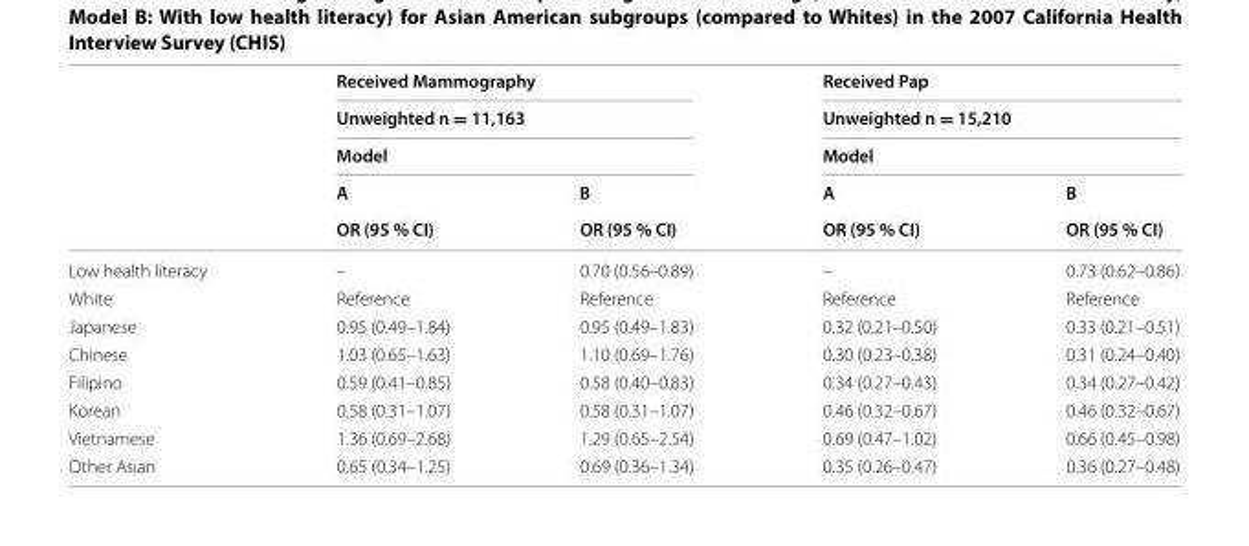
<table><thead><tr><td rowspan="5"></td><td rowspan="3" colspan="2">Received Mammography Unweighted n = 11,163 Model</td><td rowspan="3" colspan="2">Received Pap Unweighted n = 15,210 Model</td></tr><tr></tr><tr></tr><tr><td rowspan="2">A OR (95 % CI)</td><td rowspan="2">B OR (95 % CI)</td><td rowspan="2">A OR (95 % CI)</td><td rowspan="2">B OR (95 % CI)</td></tr><tr></tr></thead><tbody><tr><td>Low health literacy</td><td>–</td><td>0.70 (0.56–0.89)</td><td>–</td><td>0.73 (0.62–0.86)</td></tr><tr><td>White</td><td>Reference</td><td>Reference</td><td>Reference</td><td>Reference</td></tr><tr><td>Japanese</td><td>0.95 (0.49–1.84)</td><td>0.95 (0.49–1.83)</td><td>0.32 (0.21–0.50)</td><td>0.33 (0.21–0.51)</td></tr><tr><td>Chinese</td><td>1.03 (0.65–1.63)</td><td>1.10 (0.69–1.76)</td><td>0.30 (0.23–0.38)</td><td>0.31 (0.24–0.40)</td></tr><tr><td>Filipino</td><td>0.59 (0.41–0.85)</td><td>0.58 (0.40–0.83)</td><td>0.34 (0.27–0.43)</td><td>0.34 (0.27–0.42)</td></tr><tr><td>Korean</td><td>0.58 (0.31–1.07)</td><td>0.58 (0.31–1.07)</td><td>0.46 (0.32–0.67)</td><td>0.46 (0.32–0.67)</td></tr><tr><td>Vietnamese</td><td>1.36 (0.69–2.68)</td><td>1.29 (0.65–2.54)</td><td>0.69 (0.47–1.02)</td><td>0.66 (0.45–0.98)</td></tr><tr><td>Other Asian</td><td>0.65 (0.34–1.25)</td><td>0.69 (0.36–1.34)</td><td>0.35 (0.26–0.47)</td><td>0.36 (0.27–0.48)</td></tr></tbody></table>